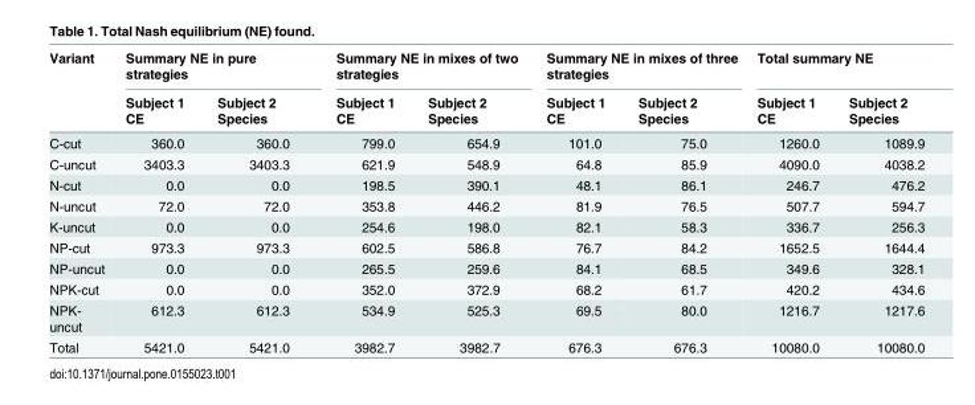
<table><thead><tr><td rowspan="2">Variant</td><td colspan="2">Summary NE in pure strategies</td><td colspan="2">Summary NE in mixes of two strategies</td><td colspan="2">Summary NE in mixes of three strategies</td><td colspan="2">Total summary NE</td></tr><tr><td>Subject 1 CE</td><td>Subject 2 Species</td><td>Subject 1 CE</td><td>Subject 2 Species</td><td>Subject 1 CE</td><td>Subject 2 Species</td><td>Subject 1 CE</td><td>Subject 2 Species</td></tr></thead><tbody><tr><td>C-cut</td><td>360.0</td><td>360.0</td><td>799.0</td><td>654.9</td><td>101.0</td><td>75.0</td><td>1260.0</td><td>1089.9</td></tr><tr><td>C-uncut</td><td>3403.3</td><td>3403.3</td><td>621.9</td><td>548.9</td><td>64.8</td><td>85.9</td><td>4090.0</td><td>4038.2</td></tr><tr><td>N-cut</td><td>0.0</td><td>0.0</td><td>198.5</td><td>390.1</td><td>48.1</td><td>86.1</td><td>246.7</td><td>476.2</td></tr><tr><td>N-uncut</td><td>72.0</td><td>72.0</td><td>353.8</td><td>446.2</td><td>81.9</td><td>76.5</td><td>507.7</td><td>594.7</td></tr><tr><td>K-uncut</td><td>0.0</td><td>0.0</td><td>254.6</td><td>198.0</td><td>82.1</td><td>58.3</td><td>336.7</td><td>256.3</td></tr><tr><td>NP-cut</td><td>973.3</td><td>973.3</td><td>602.5</td><td>586.8</td><td>76.7</td><td>84.2</td><td>1652.5</td><td>1644.4</td></tr><tr><td>NP-uncut</td><td>0.0</td><td>0.0</td><td>265.5</td><td>259.6</td><td>84.1</td><td>68.5</td><td>349.6</td><td>328.1</td></tr><tr><td>NPK-cut</td><td>0.0</td><td>0.0</td><td>352.0</td><td>372.9</td><td>68.2</td><td>61.7</td><td>420.2</td><td>434.6</td></tr><tr><td>NPK- uncut</td><td>612.3</td><td>612.3</td><td>534.9</td><td>525.3</td><td>69.5</td><td>80.0</td><td>1216.7</td><td>1217.6</td></tr><tr><td>Total</td><td>5421.0</td><td>5421.0</td><td>3982.7</td><td>3982.7</td><td>676.3</td><td>676.3</td><td>10080.0</td><td>10080.0</td></tr></tbody></table>